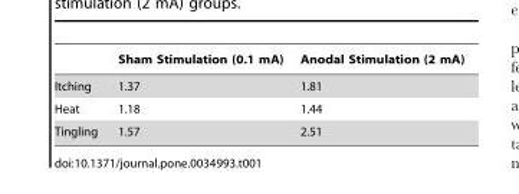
<table><thead><tr><td></td><td>Sham Stimulation (0.1 mA)</td><td>Anodal Stimulation (2 mA)</td></tr></thead><tbody><tr><td>Itching</td><td>1.37</td><td>1.81</td></tr><tr><td>Heat</td><td>1.18</td><td>1.44</td></tr><tr><td>Tingling</td><td>1.57</td><td>2.51</td></tr></tbody></table>